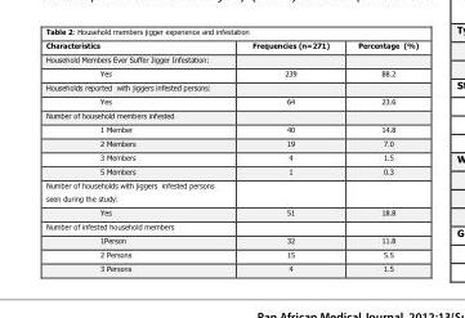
<table><thead><tr><td>Characteristics</td><td>Frequencies (n=271)</td><td>Percentage (%)</td></tr></thead><tbody><tr><td colspan="3">Household Members Ever Suffer Jigger Infestation:</td></tr><tr><td>Yes</td><td>239</td><td>88.2</td></tr><tr><td colspan="3">Households reported with jiggers infested persons:</td></tr><tr><td>Yes</td><td>64</td><td>23.6</td></tr><tr><td colspan="3">Number of household members infested</td></tr><tr><td>1 Member</td><td>40</td><td>14.8</td></tr><tr><td>2 Members</td><td>19</td><td>7.0</td></tr><tr><td>3 Members</td><td>4</td><td>1.5</td></tr><tr><td>5 Members</td><td>1</td><td>0.3</td></tr><tr><td colspan="3">Number of households with jiggers infested persons seen during the study:</td></tr><tr><td>Yes</td><td>51</td><td>18.8</td></tr><tr><td colspan="3">Number of infested household members</td></tr><tr><td>1Person</td><td>32</td><td>11.8</td></tr><tr><td>2 Persons</td><td>15</td><td>5.5</td></tr><tr><td>3 Persons</td><td>4</td><td>1.5</td></tr></tbody></table>